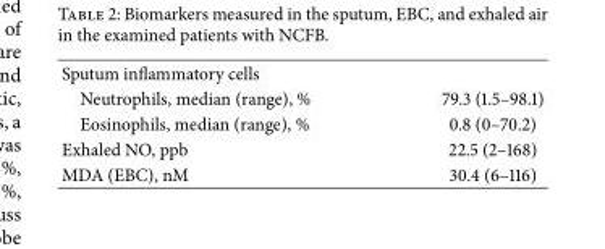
<table><tbody><tr><td colspan="2">Sputum inflammatory cells</td></tr><tr><td>Neutrophils, median (range), %</td><td>79.3 (1.5–98.1)</td></tr><tr><td>Eosinophils, median (range), %</td><td>0.8 (0–70.2)</td></tr><tr><td>Exhaled NO, ppb</td><td>22.5 (2–168)</td></tr><tr><td>MDA (EBC), nM</td><td>30.4 (6–116)</td></tr></tbody></table>